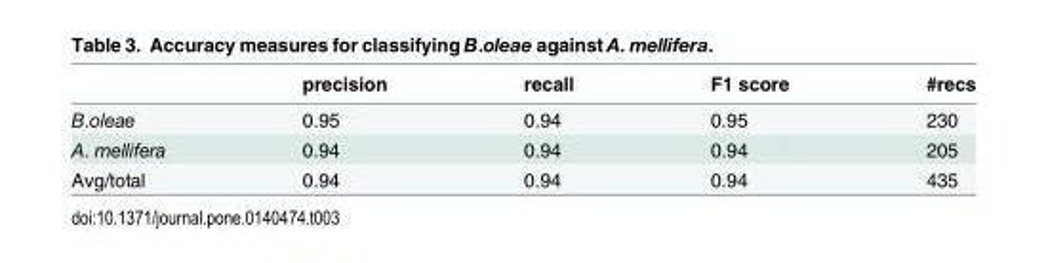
<table><thead><tr><td></td><td>precision</td><td>recall</td><td>F1 score</td><td>#recs</td></tr></thead><tbody><tr><td>B.oleae</td><td>0.95</td><td>0.94</td><td>0.95</td><td>230</td></tr><tr><td>A. mellifera</td><td>0.94</td><td>0.94</td><td>0.94</td><td>205</td></tr><tr><td>Avg/total</td><td>0.94</td><td>0.94</td><td>0.94</td><td>435</td></tr></tbody></table>